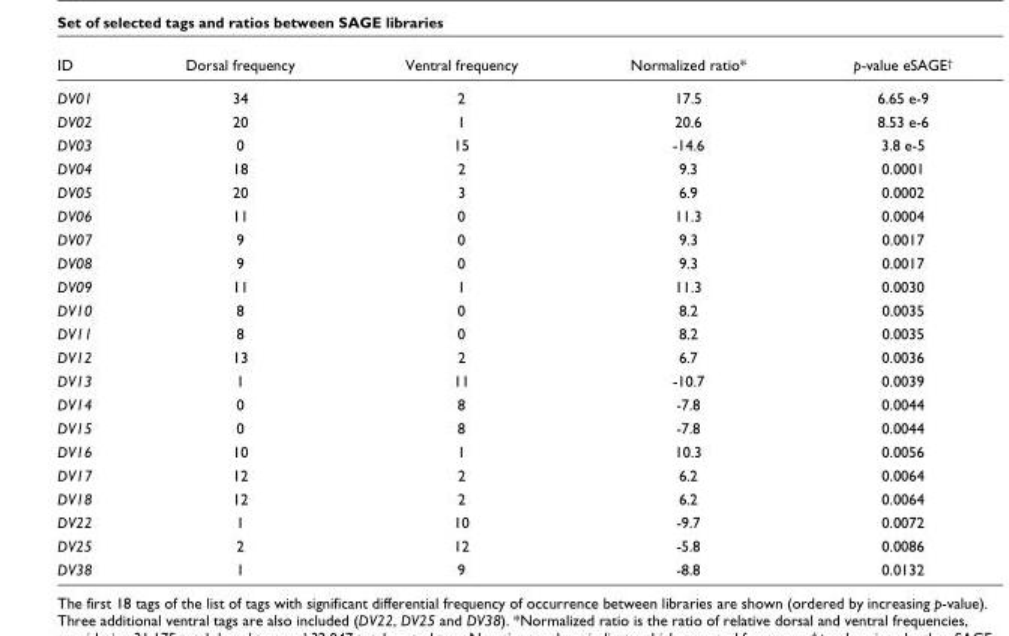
<table><thead><tr><td>ID</td><td>Dorsal frequency</td><td>Ventral frequency</td><td>Normalized ratio*</td><td>p-value eSAGE<sup>†</sup></td></tr></thead><tbody><tr><td>DV01</td><td>34</td><td>2</td><td>17.5</td><td>6.65 e-9</td></tr><tr><td>DV02</td><td>20</td><td>1</td><td>20.6</td><td>8.53 e-6</td></tr><tr><td>DV03</td><td>0</td><td>15</td><td>-14.6</td><td>3.8 e-5</td></tr><tr><td>DV04</td><td>18</td><td>2</td><td>9.3</td><td>0.0001</td></tr><tr><td>DV05</td><td>20</td><td>3</td><td>6.9</td><td>0.0002</td></tr><tr><td>DV06</td><td>11</td><td>0</td><td>11.3</td><td>0.0004</td></tr><tr><td>DV07</td><td>9</td><td>0</td><td>9.3</td><td>0.0017</td></tr><tr><td>DV08</td><td>9</td><td>0</td><td>9.3</td><td>0.0017</td></tr><tr><td>DV09</td><td>11</td><td>1</td><td>11.3</td><td>0.0030</td></tr><tr><td>DV10</td><td>8</td><td>0</td><td>8.2</td><td>0.0035</td></tr><tr><td>DV11</td><td>8</td><td>0</td><td>8.2</td><td>0.0035</td></tr><tr><td>DV12</td><td>13</td><td>2</td><td>6.7</td><td>0.0036</td></tr><tr><td>DV13</td><td>1</td><td>11</td><td>-10.7</td><td>0.0039</td></tr><tr><td>DV14</td><td>0</td><td>8</td><td>-7.8</td><td>0.0044</td></tr><tr><td>DV15</td><td>0</td><td>8</td><td>-7.8</td><td>0.0044</td></tr><tr><td>DV16</td><td>10</td><td>1</td><td>10.3</td><td>0.0056</td></tr><tr><td>DV17</td><td>12</td><td>2</td><td>6.2</td><td>0.0064</td></tr><tr><td>DV18</td><td>12</td><td>2</td><td>6.2</td><td>0.0064</td></tr><tr><td>DV22</td><td>1</td><td>10</td><td>-9.7</td><td>0.0072</td></tr><tr><td>DV25</td><td>2</td><td>12</td><td>-5.8</td><td>0.0086</td></tr><tr><td>DV38</td><td>1</td><td>9</td><td>-8.8</td><td>0.0132</td></tr></tbody></table>